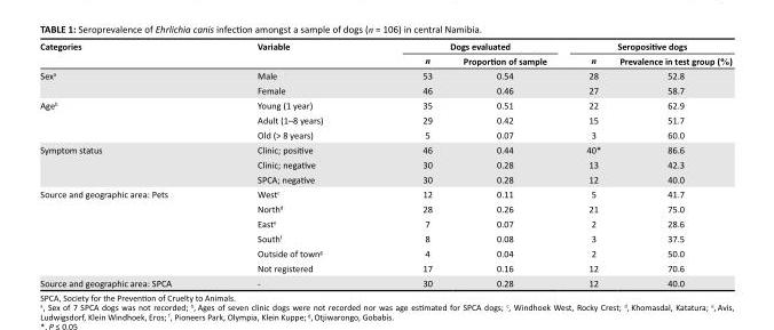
<table><thead><tr><td rowspan="2">Categories</td><td rowspan="2">Variable</td><td colspan="2">Dogs evaluated</td><td colspan="2">Seropositive dogs</td></tr><tr><td>n</td><td>Proportion of sample</td><td>n</td><td>Prevalence in test group (%)</td></tr></thead><tbody><tr><td rowspan="2">Sex<sup>a</sup></td><td>Male</td><td>53</td><td>0.54</td><td>28</td><td>52.8</td></tr><tr><td>Female</td><td>46</td><td>0.46</td><td>27</td><td>58.7</td></tr><tr><td rowspan="3">Age<sup>b</sup></td><td>Young (1 year)</td><td>35</td><td>0.51</td><td>22</td><td>62.9</td></tr><tr><td>Adult (1–8 years)</td><td>29</td><td>0.42</td><td>15</td><td>51.7</td></tr><tr><td>Old (&gt; 8 years)</td><td>5</td><td>0.07</td><td>3</td><td>60.0</td></tr><tr><td rowspan="3">Symptom status</td><td>Clinic; positive</td><td>46</td><td>0.44</td><td>40*</td><td>86.6</td></tr><tr><td>Clinic; negative</td><td>30</td><td>0.28</td><td>13</td><td>42.3</td></tr><tr><td>SPCA; negative</td><td>30</td><td>0.28</td><td>12</td><td>40.0</td></tr><tr><td rowspan="6">Source and geographic area: Pets</td><td>West<sup>c</sup></td><td>12</td><td>0.11</td><td>5</td><td>41.7</td></tr><tr><td>North<sup>d</sup></td><td>28</td><td>0.26</td><td>21</td><td>75.0</td></tr><tr><td>East<sup>e</sup></td><td>7</td><td>0.07</td><td>2</td><td>28.6</td></tr><tr><td>South<sup>f</sup></td><td>8</td><td>0.08</td><td>3</td><td>37.5</td></tr><tr><td>Outside of town<sup>g</sup></td><td>4</td><td>0.04</td><td>2</td><td>50.0</td></tr><tr><td>Not registered</td><td>17</td><td>0.16</td><td>12</td><td>70.6</td></tr><tr><td>Source and geographic area: SPCA</td><td>-</td><td>30</td><td>0.28</td><td>12</td><td>40.0</td></tr></tbody></table>